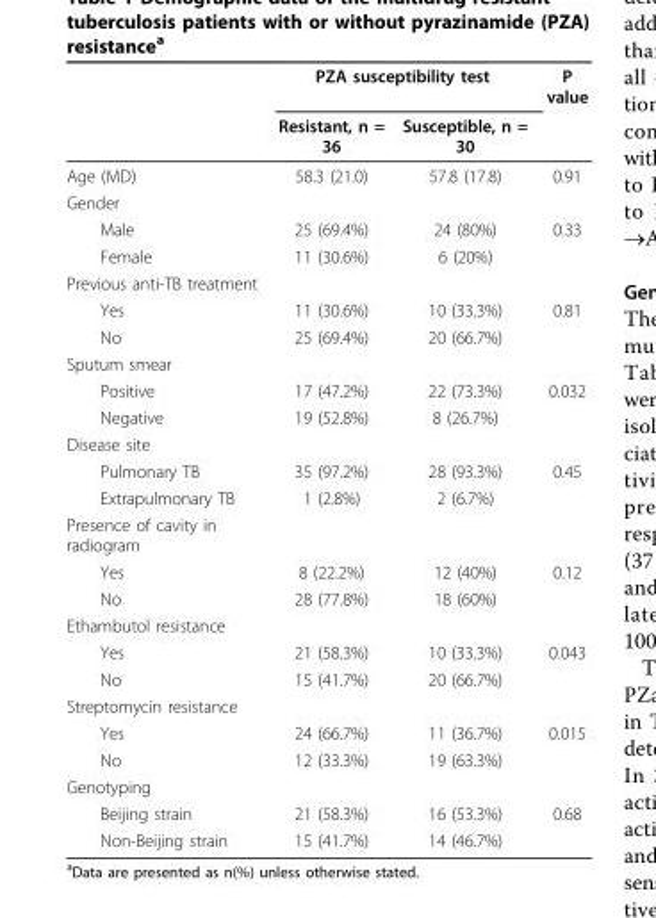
<table><thead><tr><td rowspan="2"></td><td colspan="2">PZA susceptibility test</td><td rowspan="2">P value</td></tr><tr><td>Resistant, n = 36</td><td>Susceptible, n = 30</td></tr></thead><tbody><tr><td>Age (MD)</td><td>58.3 (21.0)</td><td>57.8 (17.8)</td><td>0.91</td></tr><tr><td colspan="4">Gender</td></tr><tr><td>Male</td><td>25 (69.4%)</td><td>24 (80%)</td><td>0.33</td></tr><tr><td>Female</td><td>11 (30.6%)</td><td>6 (20%)</td><td></td></tr><tr><td colspan="4">Previous anti-TB treatment</td></tr><tr><td>Yes</td><td>11 (30.6%)</td><td>10 (33.3%)</td><td>0.81</td></tr><tr><td>No</td><td>25 (69.4%)</td><td>20 (66.7%)</td><td></td></tr><tr><td colspan="4">Sputum smear</td></tr><tr><td>Positive</td><td>17 (47.2%)</td><td>22 (73.3%)</td><td>0.032</td></tr><tr><td>Negative</td><td>19 (52.8%)</td><td>8 (26.7%)</td><td></td></tr><tr><td colspan="4">Disease site</td></tr><tr><td>Pulmonary TB</td><td>35 (97.2%)</td><td>28 (93.3%)</td><td>0.45</td></tr><tr><td>Extrapulmonary TB</td><td>1 (2.8%)</td><td>2 (6.7%)</td><td></td></tr><tr><td colspan="4">Presence of cavity in radiogram</td></tr><tr><td>Yes</td><td>8 (22.2%)</td><td>12 (40%)</td><td>0.12</td></tr><tr><td>No</td><td>28 (77.8%)</td><td>18 (60%)</td><td></td></tr><tr><td colspan="4">Ethambutol resistance</td></tr><tr><td>Yes</td><td>21 (58.3%)</td><td>10 (33.3%)</td><td>0.043</td></tr><tr><td>No</td><td>15 (41.7%)</td><td>20 (66.7%)</td><td></td></tr><tr><td colspan="4">Streptomycin resistance</td></tr><tr><td>Yes</td><td>24 (66.7%)</td><td>11 (36.7%)</td><td>0.015</td></tr><tr><td>No</td><td>12 (33.3%)</td><td>19 (63.3%)</td><td></td></tr><tr><td colspan="4">Genotyping</td></tr><tr><td>Beijing strain</td><td>21 (58.3%)</td><td>16 (53.3%)</td><td>0.68</td></tr><tr><td>Non-Beijing strain</td><td>15 (41.7%)</td><td>14 (46.7%)</td><td></td></tr></tbody></table>